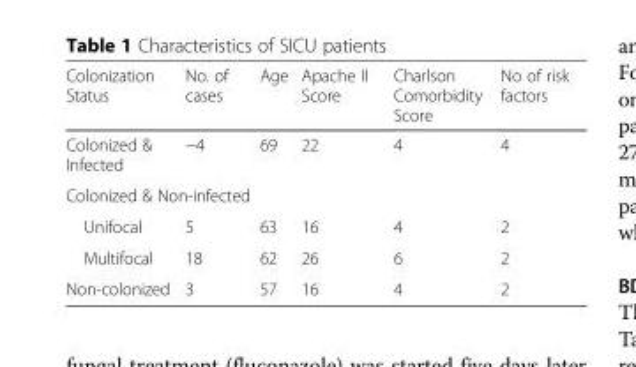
<table><thead><tr><td>Colonization Status</td><td>No. of cases</td><td>Age</td><td>Apache II Score</td><td>Charlson Comorbidity Score</td><td>No of risk factors</td></tr></thead><tbody><tr><td>Colonized &amp; Infected</td><td>−4</td><td>69</td><td>22</td><td>4</td><td>4</td></tr><tr><td colspan="6">Colonized &amp; Non-infected</td></tr><tr><td>Unifocal</td><td>5</td><td>63</td><td>16</td><td>4</td><td>2</td></tr><tr><td>Multifocal</td><td>18</td><td>62</td><td>26</td><td>6</td><td>2</td></tr><tr><td>Non-colonized</td><td>3</td><td>57</td><td>16</td><td>4</td><td>2</td></tr></tbody></table>